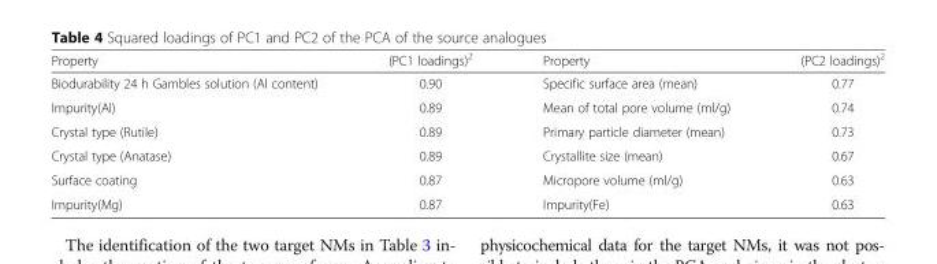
<table><thead><tr><td>Property</td><td>(PC1 loadings)<sup>2</sup></td><td>Property</td><td>(PC2 loadings)<sup>2</sup></td></tr></thead><tbody><tr><td>Biodurability 24 h Gambles solution (Al content)</td><td>0.90</td><td>Specific surface area (mean)</td><td>0.77</td></tr><tr><td>Impurity(Al)</td><td>0.89</td><td>Mean of total pore volume (ml/g)</td><td>0.74</td></tr><tr><td>Crystal type (Rutile)</td><td>0.89</td><td>Primary particle diameter (mean)</td><td>0.73</td></tr><tr><td>Crystal type (Anatase)</td><td>0.89</td><td>Crystallite size (mean)</td><td>0.67</td></tr><tr><td>Surface coating</td><td>0.87</td><td>Micropore volume (ml/g)</td><td>0.63</td></tr><tr><td>Impurity(Mg)</td><td>0.87</td><td>Impurity(Fe)</td><td>0.63</td></tr></tbody></table>